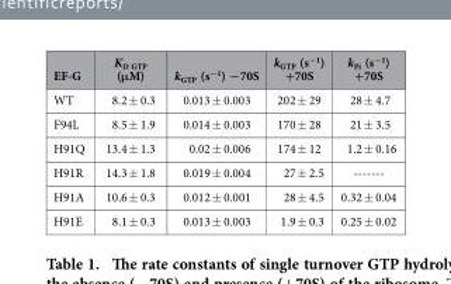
<table><thead><tr><td>EF-G</td><td>K<sub>D GTP</sub> (μM)</td><td>k<sub>GTP</sub> (s<sup>−1</sup>) −70S</td><td>k<sub>GTP</sub> (s<sup>−1</sup>) +70S</td><td>k<sub>Pi</sub> (s<sup>−1</sup>) +70S</td></tr></thead><tbody><tr><td>WT</td><td>8.2 ± 0.3</td><td>0.013 ± 0.003</td><td>202 ± 29</td><td>28 ± 4.7</td></tr><tr><td>F94L</td><td>8.5 ± 1.9</td><td>0.014 ± 0.003</td><td>170 ± 28</td><td>21 ± 3.5</td></tr><tr><td>H91Q</td><td>13.4 ± 1.3</td><td>0.02 ± 0.006</td><td>174 ± 12</td><td>1.2 ± 0.16</td></tr><tr><td>H91R</td><td>14.3 ± 1.8</td><td>0.019 ± 0.004</td><td>27 ± 2.5</td><td>-------</td></tr><tr><td>H91A</td><td>10.6 ± 0.3</td><td>0.012 ± 0.001</td><td>28 ± 4.5</td><td>0.32 ± 0.04</td></tr><tr><td>H91E</td><td>8.1 ± 0.3</td><td>0.013 ± 0.003</td><td>1.9 ± 0.3</td><td>0.25 ± 0.02</td></tr></tbody></table>